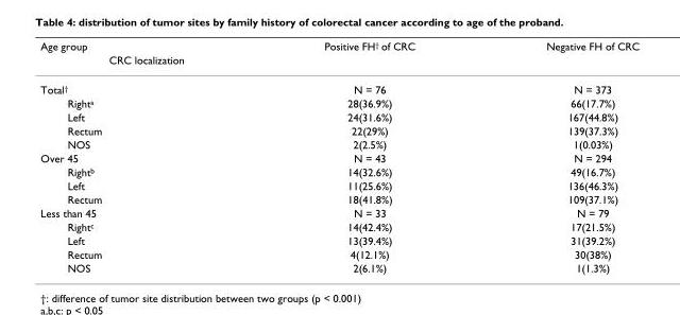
<table><thead><tr><td rowspan="2">Age group CRC localization</td><td rowspan="2">Positive FH† of CRC</td><td rowspan="2">Negative FH of CRC</td></tr><tr></tr></thead><tbody><tr><td>Total†</td><td>N = 76</td><td>N = 373</td></tr><tr><td>Righta</td><td>28(36.9%)</td><td>66(17.7%)</td></tr><tr><td>Left</td><td>24(31.6%)</td><td>167(44.8%)</td></tr><tr><td>Rectum</td><td>22(29%)</td><td>139(37.3%)</td></tr><tr><td>NOS</td><td>2(2.5%)</td><td>1(0.03%)</td></tr><tr><td>Over 45</td><td>N = 43</td><td>N = 294</td></tr><tr><td>Rightb</td><td>14(32.6%)</td><td>49(16.7%)</td></tr><tr><td>Left</td><td>11(25.6%)</td><td>136(46.3%)</td></tr><tr><td>Rectum</td><td>18(41.8%)</td><td>109(37.1%)</td></tr><tr><td>Less than 45</td><td>N = 33</td><td>N = 79</td></tr><tr><td>Rightc</td><td>14(42.4%)</td><td>17(21.5%)</td></tr><tr><td>Left</td><td>13(39.4%)</td><td>31(39.2%)</td></tr><tr><td>Rectum</td><td>4(12.1%)</td><td>30(38%)</td></tr><tr><td>NOS</td><td>2(6.1%)</td><td>1(1.3%)</td></tr></tbody></table>